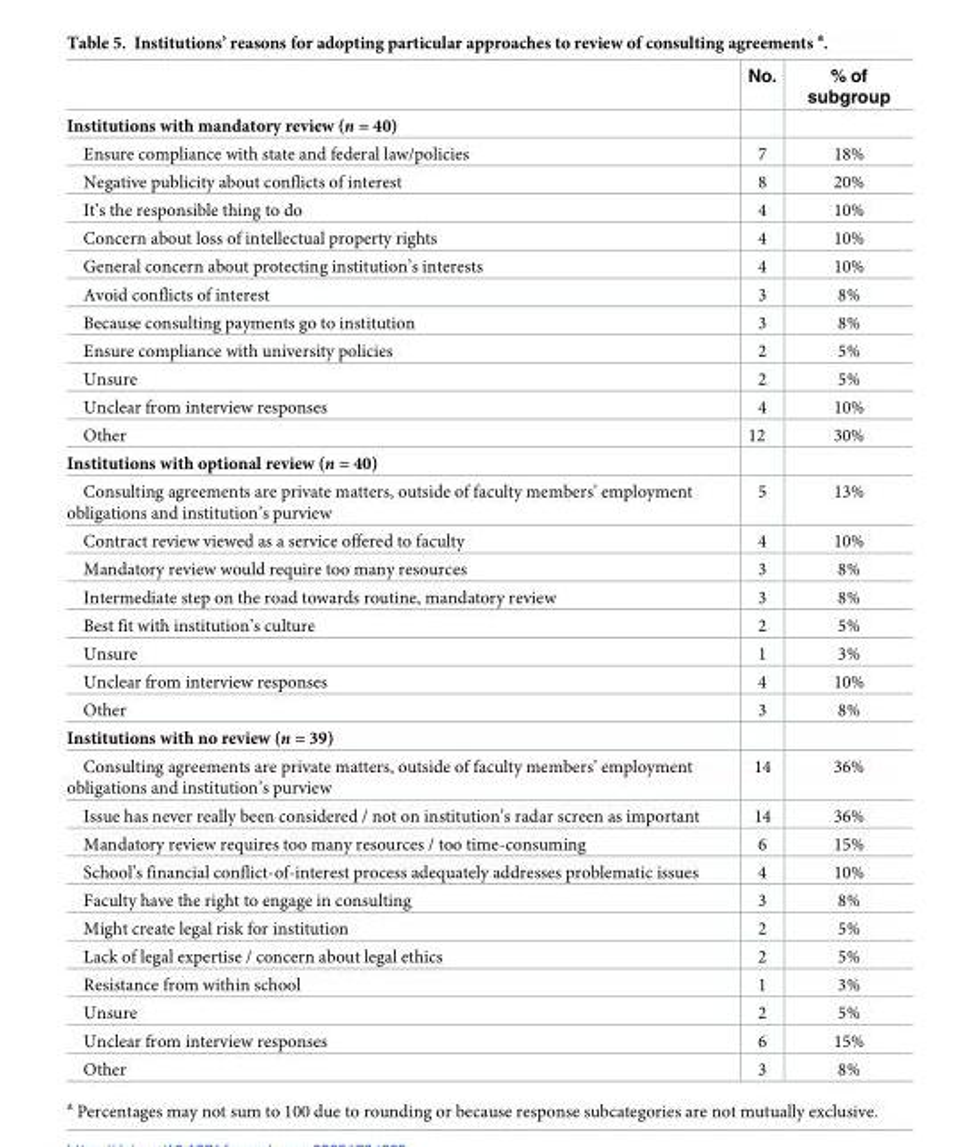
<table><thead><tr><td></td><td>No.</td><td>% of subgroup</td></tr></thead><tbody><tr><td colspan="3">Institutions with mandatory review (n = 40)</td></tr><tr><td>Ensure compliance with state and federal law/policies</td><td>7</td><td>18%</td></tr><tr><td>Negative publicity about conflicts of interest</td><td>8</td><td>20%</td></tr><tr><td>It’s the responsible thing to do</td><td>4</td><td>10%</td></tr><tr><td>Concern about loss of intellectual property rights</td><td>4</td><td>10%</td></tr><tr><td>General concern about protecting institution’s interests</td><td>4</td><td>10%</td></tr><tr><td>Avoid conflicts of interest</td><td>3</td><td>8%</td></tr><tr><td>Because consulting payments go to institution</td><td>3</td><td>8%</td></tr><tr><td>Ensure compliance with university policies</td><td>2</td><td>5%</td></tr><tr><td>Unsure</td><td>2</td><td>5%</td></tr><tr><td>Unclear from interview responses</td><td>4</td><td>10%</td></tr><tr><td>Other</td><td>12</td><td>30%</td></tr><tr><td colspan="3">Institutions with optional review (n = 40)</td></tr><tr><td>Consulting agreements are private matters, outside of faculty members’ employment obligations and institution’s purview</td><td>5</td><td>13%</td></tr><tr><td>Contract review viewed as a service offered to faculty</td><td>4</td><td>10%</td></tr><tr><td>Mandatory review would require too many resources</td><td>3</td><td>8%</td></tr><tr><td>Intermediate step on the road towards routine, mandatory review</td><td>3</td><td>8%</td></tr><tr><td>Best fit with institution’s culture</td><td>2</td><td>5%</td></tr><tr><td>Unsure</td><td>1</td><td>3%</td></tr><tr><td>Unclear from interview responses</td><td>4</td><td>10%</td></tr><tr><td>Other</td><td>3</td><td>8%</td></tr><tr><td colspan="3">Institutions with no review (n = 39)</td></tr><tr><td>Consulting agreements are private matters, outside of faculty members’ employment obligations and institution’s purview</td><td>14</td><td>36%</td></tr><tr><td>Issue has never really been considered / not on institution’s radar screen as important</td><td>14</td><td>36%</td></tr><tr><td>Mandatory review requires too many resources / too time-consuming</td><td>6</td><td>15%</td></tr><tr><td>School’s financial conflict-of-interest process adequately addresses problematic issues</td><td>4</td><td>10%</td></tr><tr><td>Faculty have the right to engage in consulting</td><td>3</td><td>8%</td></tr><tr><td>Might create legal risk for institution</td><td>2</td><td>5%</td></tr><tr><td>Lack of legal expertise / concern about legal ethics</td><td>2</td><td>5%</td></tr><tr><td>Resistance from within school</td><td>1</td><td>3%</td></tr><tr><td>Unsure</td><td>2</td><td>5%</td></tr><tr><td>Unclear from interview responses</td><td>6</td><td>15%</td></tr><tr><td>Other</td><td>3</td><td>8%</td></tr></tbody></table>